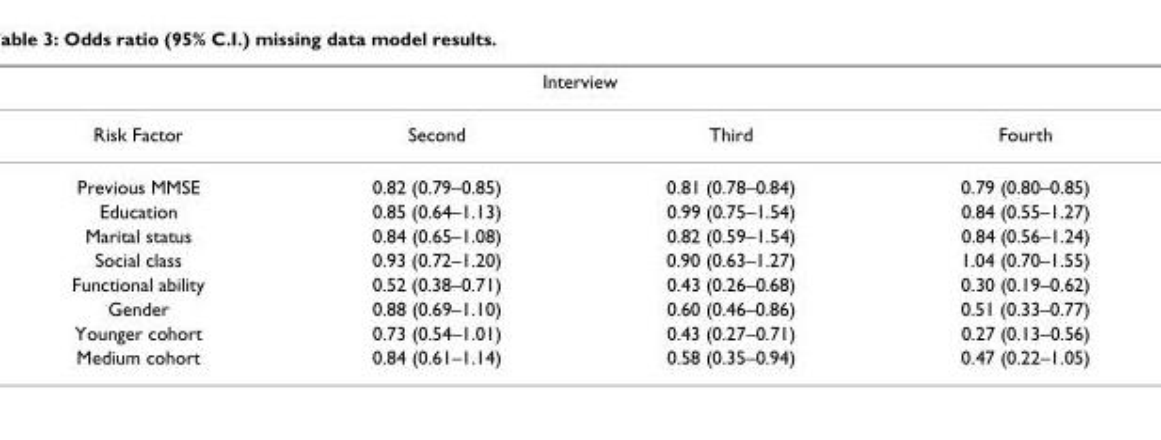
<table><thead><tr><td colspan="4">Interview</td></tr><tr><td>Risk Factor</td><td>Second</td><td>Third</td><td>Fourth</td></tr></thead><tbody><tr><td>Previous MMSE</td><td>0.82 (0.79–0.85)</td><td>0.81 (0.78–0.84)</td><td>0.79 (0.80–0.85)</td></tr><tr><td>Education</td><td>0.85 (0.64–1.13)</td><td>0.99 (0.75–1.54)</td><td>0.84 (0.55–1.27)</td></tr><tr><td>Marital status</td><td>0.84 (0.65–1.08)</td><td>0.82 (0.59–1.54)</td><td>0.84 (0.56–1.24)</td></tr><tr><td>Social class</td><td>0.93 (0.72–1.20)</td><td>0.90 (0.63–1.27)</td><td>1.04 (0.70–1.55)</td></tr><tr><td>Functional ability</td><td>0.52 (0.38–0.71)</td><td>0.43 (0.26–0.68)</td><td>0.30 (0.19–0.62)</td></tr><tr><td>Gender</td><td>0.88 (0.69–1.10)</td><td>0.60 (0.46–0.86)</td><td>0.51 (0.33–0.77)</td></tr><tr><td>Younger cohort</td><td>0.73 (0.54–1.01)</td><td>0.43 (0.27–0.71)</td><td>0.27 (0.13–0.56)</td></tr><tr><td>Medium cohort</td><td>0.84 (0.61–1.14)</td><td>0.58 (0.35–0.94)</td><td>0.47 (0.22–1.05)</td></tr></tbody></table>